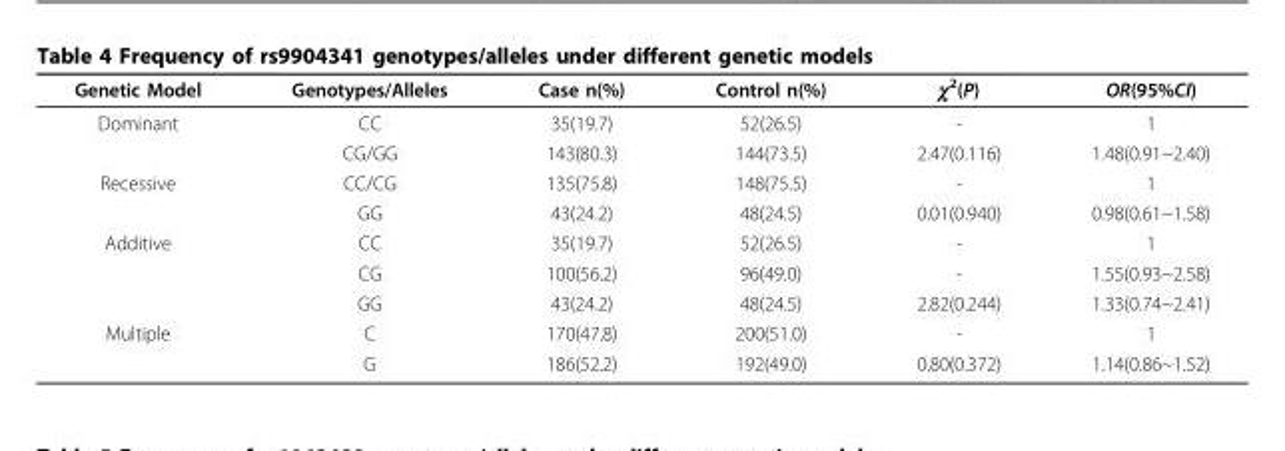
<table><thead><tr><td>Genetic Model</td><td>Genotypes/Alleles</td><td>Case n(%)</td><td>Control n(%)</td><td>χ<sup>2</sup>(P)</td><td>OR(95%CI)</td></tr></thead><tbody><tr><td rowspan="2">Dominant</td><td>CC</td><td>35(19.7)</td><td>52(26.5)</td><td>-</td><td>1</td></tr><tr><td>CG/GG</td><td>143(80.3)</td><td>144(73.5)</td><td>2.47(0.116)</td><td>1.48(0.91~2.40)</td></tr><tr><td rowspan="2">Recessive</td><td>CC/CG</td><td>135(75.8)</td><td>148(75.5)</td><td>-</td><td>1</td></tr><tr><td>GG</td><td>43(24.2)</td><td>48(24.5)</td><td>0.01(0.940)</td><td>0.98(0.61~1.58)</td></tr><tr><td rowspan="3">Additive</td><td>CC</td><td>35(19.7)</td><td>52(26.5)</td><td>-</td><td>1</td></tr><tr><td>CG</td><td>100(56.2)</td><td>96(49.0)</td><td>-</td><td>1.55(0.93~2.58)</td></tr><tr><td>GG</td><td>43(24.2)</td><td>48(24.5)</td><td>2.82(0.244)</td><td>1.33(0.74~2.41)</td></tr><tr><td rowspan="2">Multiple</td><td>C</td><td>170(47.8)</td><td>200(51.0)</td><td>-</td><td>1</td></tr><tr><td>G</td><td>186(52.2)</td><td>192(49.0)</td><td>0.80(0.372)</td><td>1.14(0.86~1.52)</td></tr></tbody></table>